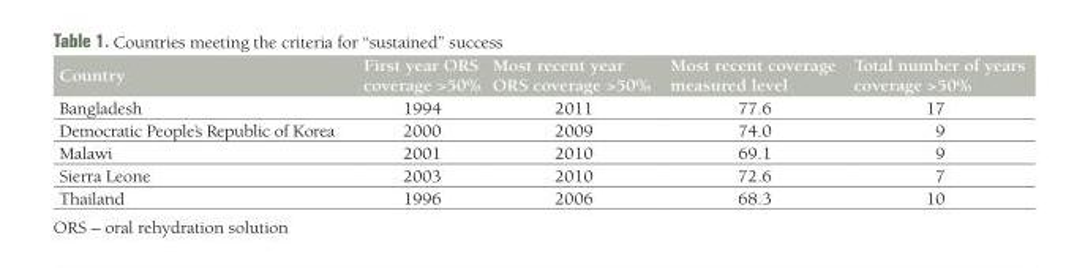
<table><thead><tr><td>Country</td><td>First year ORS coverage &gt;50%</td><td>Most recent year ORS coverage &gt;50%</td><td>Most recent coverage measured level</td><td>Total number of years coverage &gt;50%</td></tr></thead><tbody><tr><td>Bangladesh</td><td>1994</td><td>2011</td><td>77.6</td><td>17</td></tr><tr><td>Democratic People’s Republic of Korea</td><td>2000</td><td>2009</td><td>74.0</td><td>9</td></tr><tr><td>Malawi</td><td>2001</td><td>2010</td><td>69.1</td><td>9</td></tr><tr><td>Sierra Leone</td><td>2003</td><td>2010</td><td>72.6</td><td>7</td></tr><tr><td>Thailand</td><td>1996</td><td>2006</td><td>68.3</td><td>10</td></tr></tbody></table>